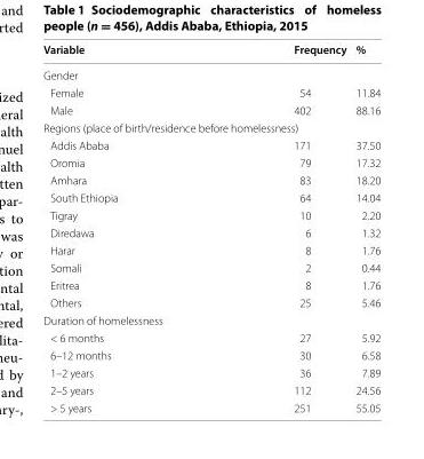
<table><thead><tr><td>Variable</td><td>Frequency</td><td>%</td></tr></thead><tbody><tr><td colspan="3">Gender</td></tr><tr><td>Female</td><td>54</td><td>11.84</td></tr><tr><td>Male</td><td>402</td><td>88.16</td></tr><tr><td colspan="3">Regions (place of birth/residence before homelessness)</td></tr><tr><td>Addis Ababa</td><td>171</td><td>37.50</td></tr><tr><td>Oromia</td><td>79</td><td>17.32</td></tr><tr><td>Amhara</td><td>83</td><td>18.20</td></tr><tr><td>South Ethiopia</td><td>64</td><td>14.04</td></tr><tr><td>Tigray</td><td>10</td><td>2.20</td></tr><tr><td>Diredawa</td><td>6</td><td>1.32</td></tr><tr><td>Harar</td><td>8</td><td>1.76</td></tr><tr><td>Somali</td><td>2</td><td>0.44</td></tr><tr><td>Eritrea</td><td>8</td><td>1.76</td></tr><tr><td>Others</td><td>25</td><td>5.46</td></tr><tr><td colspan="3">Duration of homelessness</td></tr><tr><td>&lt; 6 months</td><td>27</td><td>5.92</td></tr><tr><td>6–12 months</td><td>30</td><td>6.58</td></tr><tr><td>1–2 years</td><td>36</td><td>7.89</td></tr><tr><td>2–5 years</td><td>112</td><td>24.56</td></tr><tr><td>&gt; 5 years</td><td>251</td><td>55.05</td></tr></tbody></table>